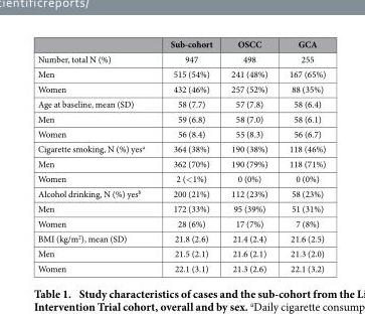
<table><thead><tr><td></td><td>Sub-cohort</td><td>OSCC</td><td>GCA</td></tr></thead><tbody><tr><td>Number, total N (%)</td><td>947</td><td>498</td><td>255</td></tr><tr><td>Men</td><td>515 (54%)</td><td>241 (48%)</td><td>167 (65%)</td></tr><tr><td>Women</td><td>432 (46%)</td><td>257 (52%)</td><td>88 (35%)</td></tr><tr><td>Age at baseline, mean (SD)</td><td>58 (7.7)</td><td>57 (7.8)</td><td>58 (6.4)</td></tr><tr><td>Men</td><td>59 (6.8)</td><td>58 (7.0)</td><td>58 (6.1)</td></tr><tr><td>Women</td><td>56 (8.4)</td><td>55 (8.3)</td><td>56 (6.7)</td></tr><tr><td>Cigarette smoking, N (%) yes<sup>a</sup></td><td>364 (38%)</td><td>190 (38%)</td><td>118 (46%)</td></tr><tr><td>Men</td><td>362 (70%)</td><td>190 (79%)</td><td>118 (71%)</td></tr><tr><td>Women</td><td>2 (&lt; 1%)</td><td>0 (0%)</td><td>0 (0%)</td></tr><tr><td>Alcohol drinking, N (%) yes<sup>b</sup></td><td>200 (21%)</td><td>112 (23%)</td><td>58 (23%)</td></tr><tr><td>Men</td><td>172 (33%)</td><td>95 (39%)</td><td>51 (31%)</td></tr><tr><td>Women</td><td>28 (6%)</td><td>17 (7%)</td><td>7 (8%)</td></tr><tr><td>BMI (kg/m<sup>2</sup>), mean (SD)</td><td>21.8 (2.6)</td><td>21.4 (2.4)</td><td>21.6 (2.5)</td></tr><tr><td>Men</td><td>21.5 (2.1)</td><td>21.6 (2.1)</td><td>21.3 (2.0)</td></tr><tr><td>Women</td><td>22.1 (3.1)</td><td>21.3 (2.6)</td><td>22.1 (3.2)</td></tr></tbody></table>